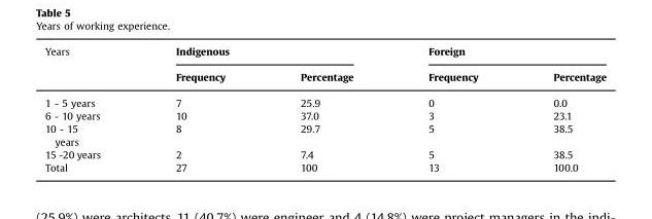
<table><thead><tr><td rowspan="2">Years</td><td colspan="2">Indigenous</td><td colspan="2">Foreign</td></tr><tr><td>Frequency</td><td>Percentage</td><td>Frequency</td><td>Percentage</td></tr></thead><tbody><tr><td>1 - 5 years</td><td>7</td><td>25.9</td><td>0</td><td>0.0</td></tr><tr><td>6 - 10 years</td><td>10</td><td>37.0</td><td>3</td><td>23.1</td></tr><tr><td>10 - 15 years</td><td>8</td><td>29.7</td><td>5</td><td>38.5</td></tr><tr><td>15 -20 years</td><td>2</td><td>7.4</td><td>5</td><td>38.5</td></tr><tr><td>Total</td><td>27</td><td>100</td><td>13</td><td>100.0</td></tr></tbody></table>